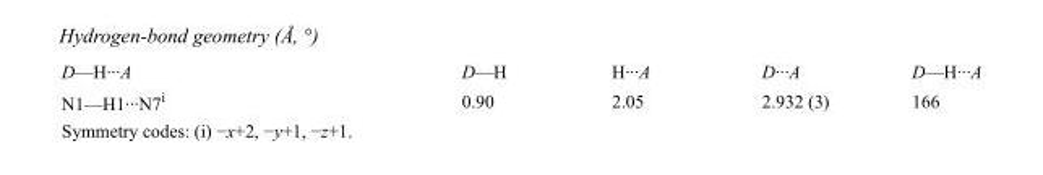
<table><tbody><tr><td>D—H···A</td><td>D—H</td><td>H···A</td><td>D···A</td><td>D—H···A</td></tr><tr><td>N1—H1···N7<sup>i</sup></td><td>0.90</td><td>2.05</td><td>2.932 (3)</td><td>166</td></tr></tbody></table>